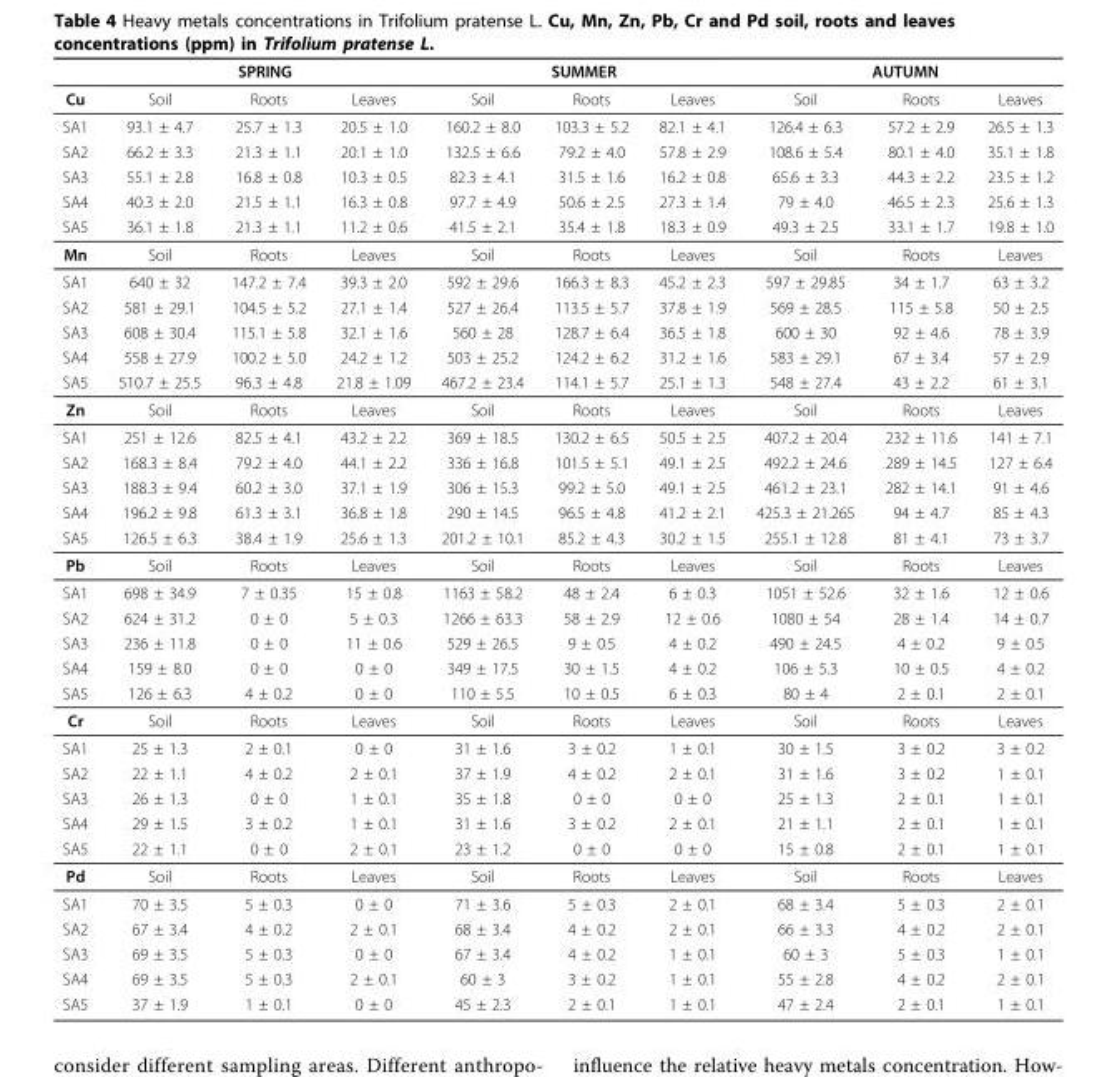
<table><thead><tr><td rowspan="2">Cu</td><td colspan="3">SPRING</td><td colspan="3">SUMMER</td><td colspan="3">AUTUMN</td></tr><tr><td>Soil</td><td>Roots</td><td>Leaves</td><td>Soil</td><td>Roots</td><td>Leaves</td><td>Soil</td><td>Roots</td><td>Leaves</td></tr></thead><tbody><tr><td>SA1</td><td>93.1 ± 4.7</td><td>25.7 ± 1.3</td><td>20.5 ± 1.0</td><td>160.2 ± 8.0</td><td>103.3 ± 5.2</td><td>82.1 ± 4.1</td><td>126.4 ± 6.3</td><td>57.2 ± 2.9</td><td>26.5 ± 1.3</td></tr><tr><td>SA2</td><td>66.2 ± 3.3</td><td>21.3 ± 1.1</td><td>20.1 ± 1.0</td><td>132.5 ± 6.6</td><td>79.2 ± 4.0</td><td>57.8 ± 2.9</td><td>108.6 ± 5.4</td><td>80.1 ± 4.0</td><td>35.1 ± 1.8</td></tr><tr><td>SA3</td><td>55.1 ± 2.8</td><td>16.8 ± 0.8</td><td>10.3 ± 0.5</td><td>82.3 ± 4.1</td><td>31.5 ± 1.6</td><td>16.2 ± 0.8</td><td>65.6 ± 3.3</td><td>44.3 ± 2.2</td><td>23.5 ± 1.2</td></tr><tr><td>SA4</td><td>40.3 ± 2.0</td><td>21.5 ± 1.1</td><td>16.3 ± 0.8</td><td>97.7 ± 4.9</td><td>50.6 ± 2.5</td><td>27.3 ± 1.4</td><td>79 ± 4.0</td><td>46.5 ± 2.3</td><td>25.6 ± 1.3</td></tr><tr><td>SA5</td><td>36.1 ± 1.8</td><td>21.3 ± 1.1</td><td>11.2 ± 0.6</td><td>41.5 ± 2.1</td><td>35.4 ± 1.8</td><td>18.3 ± 0.9</td><td>49.3 ± 2.5</td><td>33.1 ± 1.7</td><td>19.8 ± 1.0</td></tr><tr><td>Mn</td><td>Soil</td><td>Roots</td><td>Leaves</td><td>Soil</td><td>Roots</td><td>Leaves</td><td>Soil</td><td>Roots</td><td>Leaves</td></tr><tr><td>SA1</td><td>640 ± 32</td><td>147.2 ± 7.4</td><td>39.3 ± 2.0</td><td>592 ± 29.6</td><td>166.3 ± 8.3</td><td>45.2 ± 2.3</td><td>597 ± 29.85</td><td>34 ± 1.7</td><td>63 ± 3.2</td></tr><tr><td>SA2</td><td>581 ± 29.1</td><td>104.5 ± 5.2</td><td>27.1 ± 1.4</td><td>527 ± 26.4</td><td>113.5 ± 5.7</td><td>37.8 ± 1.9</td><td>569 ± 28.5</td><td>115 ± 5.8</td><td>50 ± 2.5</td></tr><tr><td>SA3</td><td>608 ± 30.4</td><td>115.1 ± 5.8</td><td>32.1 ± 1.6</td><td>560 ± 28</td><td>128.7 ± 6.4</td><td>36.5 ± 1.8</td><td>600 ± 30</td><td>92 ± 4.6</td><td>78 ± 3.9</td></tr><tr><td>SA4</td><td>558 ± 27.9</td><td>100.2 ± 5.0</td><td>24.2 ± 1.2</td><td>503 ± 25.2</td><td>124.2 ± 6.2</td><td>31.2 ± 1.6</td><td>583 ± 29.1</td><td>67 ± 3.4</td><td>57 ± 2.9</td></tr><tr><td>SA5</td><td>510.7 ± 25.5</td><td>96.3 ± 4.8</td><td>21.8 ± 1.09</td><td>467.2 ± 23.4</td><td>114.1 ± 5.7</td><td>25.1 ± 1.3</td><td>548 ± 27.4</td><td>43 ± 2.2</td><td>61 ± 3.1</td></tr><tr><td>Zn</td><td>Soil</td><td>Roots</td><td>Leaves</td><td>Soil</td><td>Roots</td><td>Leaves</td><td>Soil</td><td>Roots</td><td>Leaves</td></tr><tr><td>SA1</td><td>251 ± 12.6</td><td>82.5 ± 4.1</td><td>43.2 ± 2.2</td><td>369 ± 18.5</td><td>130.2 ± 6.5</td><td>50.5 ± 2.5</td><td>407.2 ± 20.4</td><td>232 ± 11.6</td><td>141 ± 7.1</td></tr><tr><td>SA2</td><td>168.3 ± 8.4</td><td>79.2 ± 4.0</td><td>44.1 ± 2.2</td><td>336 ± 16.8</td><td>101.5 ± 5.1</td><td>49.1 ± 2.5</td><td>492.2 ± 24.6</td><td>289 ± 14.5</td><td>127 ± 6.4</td></tr><tr><td>SA3</td><td>188.3 ± 9.4</td><td>60.2 ± 3.0</td><td>37.1 ± 1.9</td><td>306 ± 15.3</td><td>99.2 ± 5.0</td><td>49.1 ± 2.5</td><td>461.2 ± 23.1</td><td>282 ± 14.1</td><td>91 ± 4.6</td></tr><tr><td>SA4</td><td>196.2 ± 9.8</td><td>61.3 ± 3.1</td><td>36.8 ± 1.8</td><td>290 ± 14.5</td><td>96.5 ± 4.8</td><td>41.2 ± 2.1</td><td>425.3 ± 21.265</td><td>94 ± 4.7</td><td>85 ± 4.3</td></tr><tr><td>SA5</td><td>126.5 ± 6.3</td><td>38.4 ± 1.9</td><td>25.6 ± 1.3</td><td>201.2 ± 10.1</td><td>85.2 ± 4.3</td><td>30.2 ± 1.5</td><td>255.1 ± 12.8</td><td>81 ± 4.1</td><td>73 ± 3.7</td></tr><tr><td>Pb</td><td>Soil</td><td>Roots</td><td>Leaves</td><td>Soil</td><td>Roots</td><td>Leaves</td><td>Soil</td><td>Roots</td><td>Leaves</td></tr><tr><td>SA1</td><td>698 ± 34.9</td><td>7 ± 0.35</td><td>15 ± 0.8</td><td>1163 ± 58.2</td><td>48 ± 2.4</td><td>6 ± 0.3</td><td>1051 ± 52.6</td><td>32 ± 1.6</td><td>12 ± 0.6</td></tr><tr><td>SA2</td><td>624 ± 31.2</td><td>0 ± 0</td><td>5 ± 0.3</td><td>1266 ± 63.3</td><td>58 ± 2.9</td><td>12 ± 0.6</td><td>1080 ± 54</td><td>28 ± 1.4</td><td>14 ± 0.7</td></tr><tr><td>SA3</td><td>236 ± 11.8</td><td>0 ± 0</td><td>11 ± 0.6</td><td>529 ± 26.5</td><td>9 ± 0.5</td><td>4 ± 0.2</td><td>490 ± 24.5</td><td>4 ± 0.2</td><td>9 ± 0.5</td></tr><tr><td>SA4</td><td>159 ± 8.0</td><td>0 ± 0</td><td>0 ± 0</td><td>349 ± 17.5</td><td>30 ± 1.5</td><td>4 ± 0.2</td><td>106 ± 5.3</td><td>10 ± 0.5</td><td>4 ± 0.2</td></tr><tr><td>SA5</td><td>126 ± 6.3</td><td>4 ± 0.2</td><td>0 ± 0</td><td>110 ± 5.5</td><td>10 ± 0.5</td><td>6 ± 0.3</td><td>80 ± 4</td><td>2 ± 0.1</td><td>2 ± 0.1</td></tr><tr><td>Cr</td><td>Soil</td><td>Roots</td><td>Leaves</td><td>Soil</td><td>Roots</td><td>Leaves</td><td>Soil</td><td>Roots</td><td>Leaves</td></tr><tr><td>SA1</td><td>25 ± 1.3</td><td>2 ± 0.1</td><td>0 ± 0</td><td>31 ± 1.6</td><td>3 ± 0.2</td><td>1 ± 0.1</td><td>30 ± 1.5</td><td>3 ± 0.2</td><td>3 ± 0.2</td></tr><tr><td>SA2</td><td>22 ± 1.1</td><td>4 ± 0.2</td><td>2 ± 0.1</td><td>37 ± 1.9</td><td>4 ± 0.2</td><td>2 ± 0.1</td><td>31 ± 1.6</td><td>3 ± 0.2</td><td>1 ± 0.1</td></tr><tr><td>SA3</td><td>26 ± 1.3</td><td>0 ± 0</td><td>1 ± 0.1</td><td>35 ± 1.8</td><td>0 ± 0</td><td>0 ± 0</td><td>25 ± 1.3</td><td>2 ± 0.1</td><td>1 ± 0.1</td></tr><tr><td>SA4</td><td>29 ± 1.5</td><td>3 ± 0.2</td><td>1 ± 0.1</td><td>31 ± 1.6</td><td>3 ± 0.2</td><td>2 ± 0.1</td><td>21 ± 1.1</td><td>2 ± 0.1</td><td>1 ± 0.1</td></tr><tr><td>SA5</td><td>22 ± 1.1</td><td>0 ± 0</td><td>2 ± 0.1</td><td>23 ± 1.2</td><td>0 ± 0</td><td>0 ± 0</td><td>15 ± 0.8</td><td>2 ± 0.1</td><td>1 ± 0.1</td></tr><tr><td>Pd</td><td>Soil</td><td>Roots</td><td>Leaves</td><td>Soil</td><td>Roots</td><td>Leaves</td><td>Soil</td><td>Roots</td><td>Leaves</td></tr><tr><td>SA1</td><td>70 ± 3.5</td><td>5 ± 0.3</td><td>0 ± 0</td><td>71 ± 3.6</td><td>5 ± 0.3</td><td>2 ± 0.1</td><td>68 ± 3.4</td><td>5 ± 0.3</td><td>2 ± 0.1</td></tr><tr><td>SA2</td><td>67 ± 3.4</td><td>4 ± 0.2</td><td>2 ± 0.1</td><td>68 ± 3.4</td><td>4 ± 0.2</td><td>2 ± 0.1</td><td>66 ± 3.3</td><td>4 ± 0.2</td><td>2 ± 0.1</td></tr><tr><td>SA3</td><td>69 ± 3.5</td><td>5 ± 0.3</td><td>0 ± 0</td><td>67 ± 3.4</td><td>4 ± 0.2</td><td>1 ± 0.1</td><td>60 ± 3</td><td>5 ± 0.3</td><td>1 ± 0.1</td></tr><tr><td>SA4</td><td>69 ± 3.5</td><td>5 ± 0.3</td><td>2 ± 0.1</td><td>60 ± 3</td><td>3 ± 0.2</td><td>1 ± 0.1</td><td>55 ± 2.8</td><td>4 ± 0.2</td><td>2 ± 0.1</td></tr><tr><td>SA5</td><td>37 ± 1.9</td><td>1 ± 0.1</td><td>0 ± 0</td><td>45 ± 2.3</td><td>2 ± 0.1</td><td>1 ± 0.1</td><td>47 ± 2.4</td><td>2 ± 0.1</td><td>1 ± 0.1</td></tr></tbody></table>